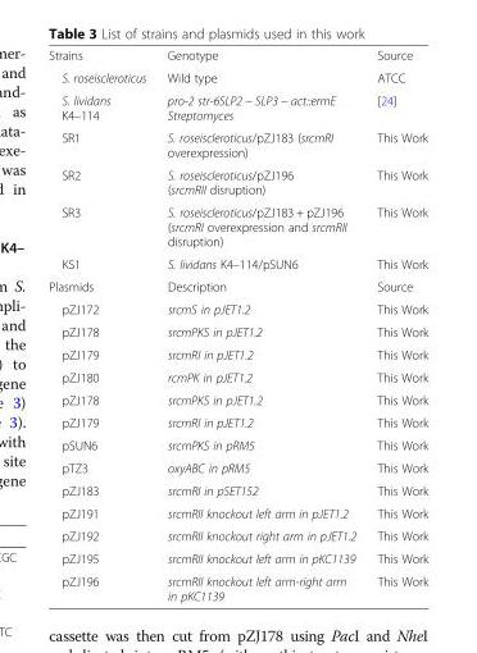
<table><tbody><tr><td>Strains</td><td>Genotype</td><td>Source</td></tr><tr><td>S. roseiscleroticus</td><td>Wild type</td><td>ATCC</td></tr><tr><td>S. lividans K4–114</td><td>pro-2 str-6SLP2 − SLP3 − act::ermE Streptomyces</td><td>[24]</td></tr><tr><td>SR1</td><td>S. roseiscleroticus/pZJ183 (srcmRI overexpression)</td><td>This Work</td></tr><tr><td>SR2</td><td>S. roseiscleroticus/pZJ196 (srcmRII disruption)</td><td>This Work</td></tr><tr><td>SR3</td><td>S. roseiscleroticus/pZJ183 + pZJ196 (srcmRI overexpression and srcmRII disruption)</td><td>This Work</td></tr><tr><td>KS1</td><td>S. lividans K4–114/pSUN6</td><td>This Work</td></tr><tr><td>Plasmids</td><td>Description</td><td>Source</td></tr><tr><td>pZJ172</td><td>srcmS in pJET1.2</td><td>This Work</td></tr><tr><td>pZJ178</td><td>srcmPKS in pJET1.2</td><td>This Work</td></tr><tr><td>pZJ179</td><td>srcmRI in pJET1.2</td><td>This Work</td></tr><tr><td>pZJ180</td><td>rcmPK in pJET1.2</td><td>This Work</td></tr><tr><td>pZJ178</td><td>srcmPKS in pJET1.2</td><td>This Work</td></tr><tr><td>pZJ179</td><td>srcmRI in pJET1.2</td><td>This Work</td></tr><tr><td>pSUN6</td><td>srcmPKS in pRM5</td><td>This Work</td></tr><tr><td>pTZ3</td><td>oxyABC in pRM5</td><td>This Work</td></tr><tr><td>pZJ183</td><td>srcmRI in pSET152</td><td>This Work</td></tr><tr><td>pZJ191</td><td>srcmRII knockout left arm in pJET1.2</td><td>This Work</td></tr><tr><td>pZJ192</td><td>srcmRII knockout right arm in pJET1.2</td><td>This Work</td></tr><tr><td>pZJ195</td><td>srcmRII knockout left arm in pKC1139</td><td>This Work</td></tr><tr><td>pZJ196</td><td>srcmRII knockout left arm-right arm in pKC1139</td><td>This Work</td></tr></tbody></table>